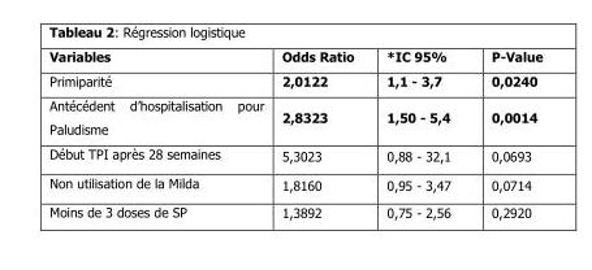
<table><thead><tr><td>Variables</td><td>Odds Ratio</td><td>*IC 95%</td><td>P-Value</td></tr></thead><tbody><tr><td>Primiparité</td><td>2,0122</td><td>1,1 - 3,7</td><td>0,0240</td></tr><tr><td>Antécédent d’hospitalisation pour Paludisme</td><td>2,8323</td><td>1,50 - 5,4</td><td>0,0014</td></tr><tr><td>Début TPI après 28 semaines</td><td>5,3023</td><td>0,88 - 32,1</td><td>0,0693</td></tr><tr><td>Non utilisation de la Milda</td><td>1,8160</td><td>0,95 - 3,47</td><td>0,0714</td></tr><tr><td>Moins de 3 doses de SP</td><td>1,3892</td><td>0,75 - 2,56</td><td>0,2920</td></tr></tbody></table>